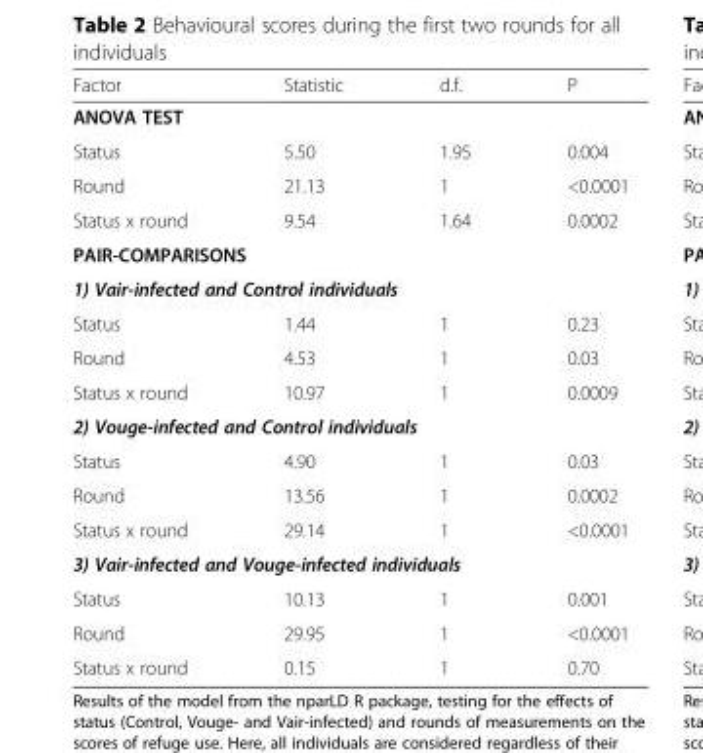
<table><thead><tr><td>Factor</td><td>Statistic</td><td>d.f.</td><td>P</td></tr></thead><tbody><tr><td colspan="4">ANOVA TEST</td></tr><tr><td>Status</td><td>5.50</td><td>1.95</td><td>0.004</td></tr><tr><td>Round</td><td>21.13</td><td>1</td><td>&lt;0.0001</td></tr><tr><td>Status x round</td><td>9.54</td><td>1.64</td><td>0.0002</td></tr><tr><td colspan="4">PAIR-COMPARISONS</td></tr><tr><td colspan="4">1) Vair-infected and Control individuals</td></tr><tr><td>Status</td><td>1.44</td><td>1</td><td>0.23</td></tr><tr><td>Round</td><td>4.53</td><td>1</td><td>0.03</td></tr><tr><td>Status x round</td><td>10.97</td><td>1</td><td>0.0009</td></tr><tr><td colspan="4">2) Vouge-infected and Control individuals</td></tr><tr><td>Status</td><td>4.90</td><td>1</td><td>0.03</td></tr><tr><td>Round</td><td>13.56</td><td>1</td><td>0.0002</td></tr><tr><td>Status x round</td><td>29.14</td><td>1</td><td>&lt;0.0001</td></tr><tr><td colspan="4">3) Vair-infected and Vouge-infected individuals</td></tr><tr><td>Status</td><td>10.13</td><td>1</td><td>0.001</td></tr><tr><td>Round</td><td>29.95</td><td>1</td><td>&lt;0.0001</td></tr><tr><td>Status x round</td><td>0.15</td><td>1</td><td>0.70</td></tr></tbody></table>